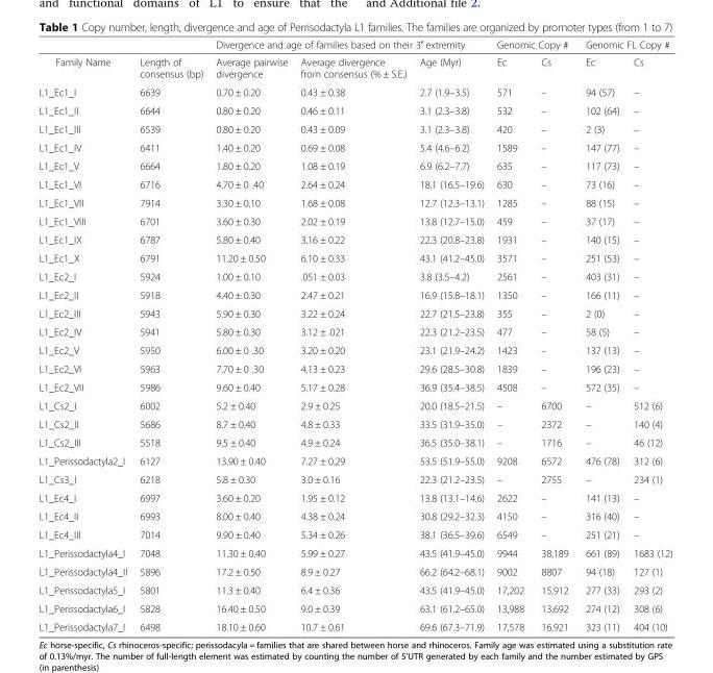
<table><thead><tr><td rowspan="2">Family Name</td><td rowspan="2">Length of consensus (bp)</td><td colspan="3">Divergence and age of families based on their 3′ extremity</td><td colspan="2">Genomic Copy #</td><td colspan="2">Genomic FL Copy #</td></tr><tr><td>Average pairwise divergence</td><td>Average divergence from consensus (% ± S.E.)</td><td>Age (Myr)</td><td>Ec</td><td>Cs</td><td>Ec</td><td>Cs</td></tr></thead><tbody><tr><td>L1_Ec1_I</td><td>6639</td><td>0.70 ± 0.20</td><td>0.43 ± 0.38</td><td>2.7 (1.9–3.5)</td><td>571</td><td>–</td><td>94 (57)</td><td>–</td></tr><tr><td>L1_Ec1_II</td><td>6644</td><td>0.80 ± 0.20</td><td>0.46 ± 0.11</td><td>3.1 (2.3–3.8)</td><td>532</td><td>–</td><td>102 (64)</td><td>–</td></tr><tr><td>L1_Ec1_III</td><td>6539</td><td>0.80 ± 0.20</td><td>0.43 ± 0.09</td><td>3.1 (2.3–3.8)</td><td>420</td><td>–</td><td>2 (3)</td><td>–</td></tr><tr><td>L1_Ec1_IV</td><td>6411</td><td>1.40 ± 0.20</td><td>0.69 ± 0.08</td><td>5.4 (4.6–6.2)</td><td>1589</td><td>–</td><td>147 (77)</td><td>–</td></tr><tr><td>L1_Ec1_V</td><td>6664</td><td>1.80 ± 0.20</td><td>1.08 ± 0.19</td><td>6.9 (6.2–7.7)</td><td>635</td><td>–</td><td>117 (73)</td><td>–</td></tr><tr><td>L1_Ec1_VI</td><td>6716</td><td>4.70 ± 0 .40</td><td>2.64 ± 0.24</td><td>18.1 (16.5–19.6)</td><td>630</td><td>–</td><td>73 (16)</td><td>–</td></tr><tr><td>L1_Ec1_VII</td><td>7914</td><td>3.30 ± 0.10</td><td>1.68 ± 0.08</td><td>12.7 (12.3–13.1)</td><td>1285</td><td>–</td><td>88 (15)</td><td>–</td></tr><tr><td>L1_Ec1_VIII</td><td>6701</td><td>3.60 ± 0.30</td><td>2.02 ± 0.19</td><td>13.8 (12.7–15.0)</td><td>459</td><td>–</td><td>37 (17)</td><td>–</td></tr><tr><td>L1_Ec1_IX</td><td>6787</td><td>5.80 ± 0.40</td><td>3.16 ± 0.22</td><td>22.3 (20.8–23.8)</td><td>1931</td><td>–</td><td>140 (15)</td><td>–</td></tr><tr><td>L1_Ec1_X</td><td>6791</td><td>11.20 ± 0.50</td><td>6.10 ± 0.33</td><td>43.1 (41.2–45.0)</td><td>3571</td><td>–</td><td>251 (53)</td><td>–</td></tr><tr><td>L1_Ec2_I</td><td>5924</td><td>1.00 ± 0.10</td><td>.051 ± 0.03</td><td>3.8 (3.5–4.2)</td><td>2561</td><td>–</td><td>403 (31)</td><td>–</td></tr><tr><td>L1_Ec2_II</td><td>5918</td><td>4.40 ± 0.30</td><td>2.47 ± 0.21</td><td>16.9 (15.8–18.1)</td><td>1350</td><td>–</td><td>166 (11)</td><td>–</td></tr><tr><td>L1_Ec2_III</td><td>5943</td><td>5.90 ± 0.30</td><td>3.22 ± 0.24</td><td>22.7 (21.5–23.8)</td><td>355</td><td>–</td><td>2 (0)</td><td>–</td></tr><tr><td>L1_Ec2_IV</td><td>5941</td><td>5.80 ± 0.30</td><td>3.12 ± .021</td><td>22.3 (21.2–23.5)</td><td>477</td><td>–</td><td>58 (5)</td><td>–</td></tr><tr><td>L1_Ec2_V</td><td>5950</td><td>6.00 ± 0 .30</td><td>3.20 ± 0.20</td><td>23.1 (21.9–24.2)</td><td>1423</td><td>–</td><td>137 (13)</td><td>–</td></tr><tr><td>L1_Ec2_VI</td><td>5963</td><td>7.70 ± 0 .30</td><td>4.13 ± 0.23</td><td>29.6 (28.5–30.8)</td><td>1839</td><td>–</td><td>196 (23)</td><td>–</td></tr><tr><td>L1_Ec2_VII</td><td>5986</td><td>9.60 ± 0.40</td><td>5.17 ± 0.28</td><td>36.9 (35.4–38.5)</td><td>4508</td><td>–</td><td>572 (35)</td><td>–</td></tr><tr><td>L1_Cs2_I</td><td>6002</td><td>5.2 ± 0.40</td><td>2.9 ± 0.25</td><td>20.0 (18.5–21.5)</td><td>–</td><td>6700</td><td>–</td><td>512 (6)</td></tr><tr><td>L1_Cs2_II</td><td>5686</td><td>8.7 ± 0.40</td><td>4.8 ± 0.33</td><td>33.5 (31.9–35.0)</td><td>–</td><td>2372</td><td>–</td><td>140 (4)</td></tr><tr><td>L1_Cs2_III</td><td>5518</td><td>9.5 ± 0.40</td><td>4.9 ± 0.24</td><td>36.5 (35.0–38.1)</td><td>–</td><td>1716</td><td>–</td><td>46 (12)</td></tr><tr><td>L1_Perissodactyla2_I</td><td>6127</td><td>13.90 ± 0.40</td><td>7.27 ± 0.29</td><td>53.5 (51.9–55.0)</td><td>9208</td><td>6572</td><td>476 (78)</td><td>312 (6)</td></tr><tr><td>L1_Cs3_I</td><td>6218</td><td>5.8 ± 0.30</td><td>3.0 ± 0.16</td><td>22.3 (21.2–23.5)</td><td>–</td><td>2755</td><td>–</td><td>234 (1)</td></tr><tr><td>L1_Ec4_I</td><td>6997</td><td>3.60 ± 0.20</td><td>1.95 ± 0.12</td><td>13.8 (13.1–14.6)</td><td>2622</td><td>–</td><td>141 (13)</td><td>–</td></tr><tr><td>L1_Ec4_II</td><td>6993</td><td>8.00 ± 0.40</td><td>4.38 ± 0.24</td><td>30.8 (29.2–32.3)</td><td>4150</td><td>–</td><td>316 (40)</td><td>–</td></tr><tr><td>L1_Ec4_III</td><td>7014</td><td>9.90 ± 0.40</td><td>5.34 ± 0.26</td><td>38.1 (36.5–39.6)</td><td>6549</td><td>–</td><td>251 (21)</td><td>–</td></tr><tr><td>L1_Perissodactyla4_I</td><td>7048</td><td>11.30 ± 0.40</td><td>5.99 ± 0.27</td><td>43.5 (41.9–45.0)</td><td>9944</td><td>38,189</td><td>661 (89)</td><td>1683 (12)</td></tr><tr><td>L1_Perissodactyla4_II</td><td>5896</td><td>17.2 ± 0.50</td><td>8.9 ± 0.27</td><td>66.2 (64.2–68.1)</td><td>9002</td><td>8807</td><td>94 (18)</td><td>127 (1)</td></tr><tr><td>L1_Perissodactyla5_I</td><td>5801</td><td>11.3 ± 0.40</td><td>6.4 ± 0.36</td><td>43.5 (41.9–45.0)</td><td>17,202</td><td>15,912</td><td>277 (33)</td><td>293 (2)</td></tr><tr><td>L1_Perissodactyla6_I</td><td>5828</td><td>16.40 ± 0.50</td><td>9.0 ± 0.39</td><td>63.1 (61.2–65.0)</td><td>13,988</td><td>13,692</td><td>274 (12)</td><td>308 (6)</td></tr><tr><td>L1_Perissodactyla7_I</td><td>6498</td><td>18.10 ± 0.60</td><td>10.7 ± 0.61</td><td>69.6 (67.3–71.9)</td><td>17,578</td><td>16,921</td><td>323 (11)</td><td>404 (10)</td></tr></tbody></table>